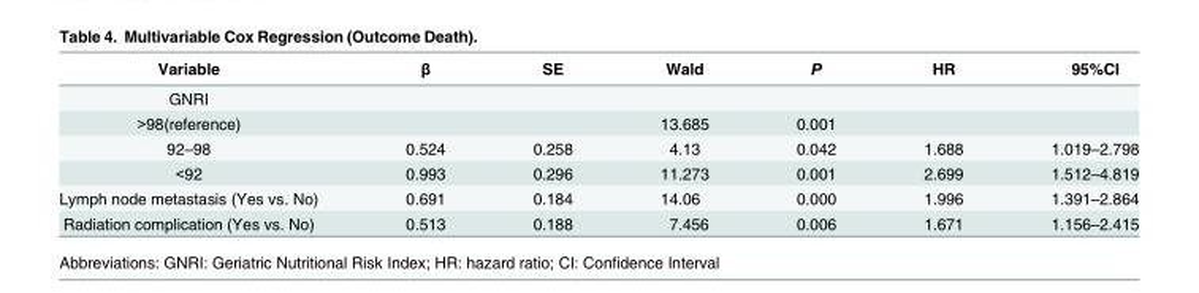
<table><thead><tr><td>Variable</td><td>β</td><td>SE</td><td>Wald</td><td>P</td><td>HR</td><td>95%CI</td></tr></thead><tbody><tr><td colspan="7">GNRI</td></tr><tr><td>&gt;98(reference)</td><td></td><td></td><td>13.685</td><td>0.001</td><td></td><td></td></tr><tr><td>92–98</td><td>0.524</td><td>0.258</td><td>4.13</td><td>0.042</td><td>1.688</td><td>1.019–2.798</td></tr><tr><td>&lt;92</td><td>0.993</td><td>0.296</td><td>11.273</td><td>0.001</td><td>2.699</td><td>1.512–4.819</td></tr><tr><td>Lymph node metastasis (Yes vs. No)</td><td>0.691</td><td>0.184</td><td>14.06</td><td>0.000</td><td>1.996</td><td>1.391–2.864</td></tr><tr><td>Radiation complication (Yes vs. No)</td><td>0.513</td><td>0.188</td><td>7.456</td><td>0.006</td><td>1.671</td><td>1.156–2.415</td></tr></tbody></table>